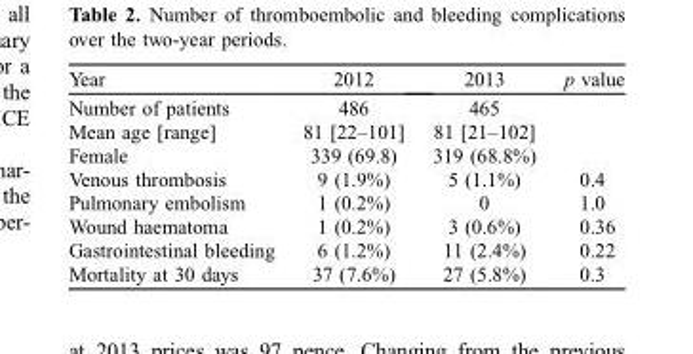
<table><thead><tr><td>Year</td><td>2012</td><td>2013</td><td>p value</td></tr></thead><tbody><tr><td>Number of patients</td><td>486</td><td>465</td><td></td></tr><tr><td>Mean age [range]</td><td>81 [22–101]</td><td>81 [21–102]</td><td></td></tr><tr><td>Female</td><td>339 (69.8)</td><td>319 (68.8%)</td><td></td></tr><tr><td>Venous thrombosis</td><td>9 (1.9%)</td><td>5 (1.1%)</td><td>0.4</td></tr><tr><td>Pulmonary embolism</td><td>1 (0.2%)</td><td>0</td><td>1.0</td></tr><tr><td>Wound haematoma</td><td>1 (0.2%)</td><td>3 (0.6%)</td><td>0.36</td></tr><tr><td>Gastrointestinal bleeding</td><td>6 (1.2%)</td><td>11 (2.4%)</td><td>0.22</td></tr><tr><td>Mortality at 30 days</td><td>37 (7.6%)</td><td>27 (5.8%)</td><td>0.3</td></tr></tbody></table>